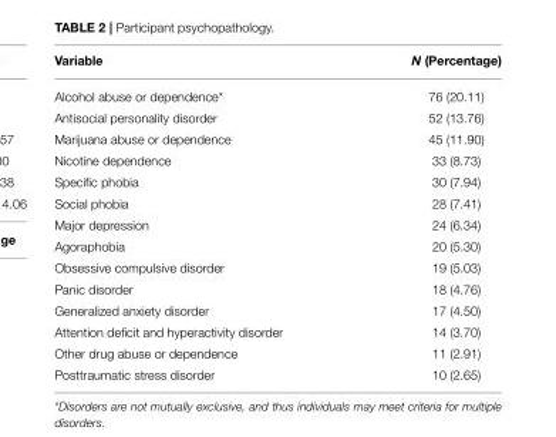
<table><thead><tr><td>Variable</td><td>N (Percentage)</td></tr></thead><tbody><tr><td>Alcohol abuse or dependence*</td><td>76 (20.11)</td></tr><tr><td>Antisocial personality disorder</td><td>52 (13.76)</td></tr><tr><td>Marijuana abuse or dependence</td><td>45 (11.90)</td></tr><tr><td>Nicotine dependence</td><td>33 (8.73)</td></tr><tr><td>Specific phobia</td><td>30 (7.94)</td></tr><tr><td>Social phobia</td><td>28 (7.41)</td></tr><tr><td>Major depression</td><td>24 (6.34)</td></tr><tr><td>Agoraphobia</td><td>20 (5.30)</td></tr><tr><td>Obsessive compulsive disorder</td><td>19 (5.03)</td></tr><tr><td>Panic disorder</td><td>18 (4.76)</td></tr><tr><td>Generalized anxiety disorder</td><td>17 (4.50)</td></tr><tr><td>Attention deficit and hyperactivity disorder</td><td>14 (3.70)</td></tr><tr><td>Other drug abuse or dependence</td><td>11 (2.91)</td></tr><tr><td>Posttraumatic stress disorder</td><td>10 (2.65)</td></tr></tbody></table>